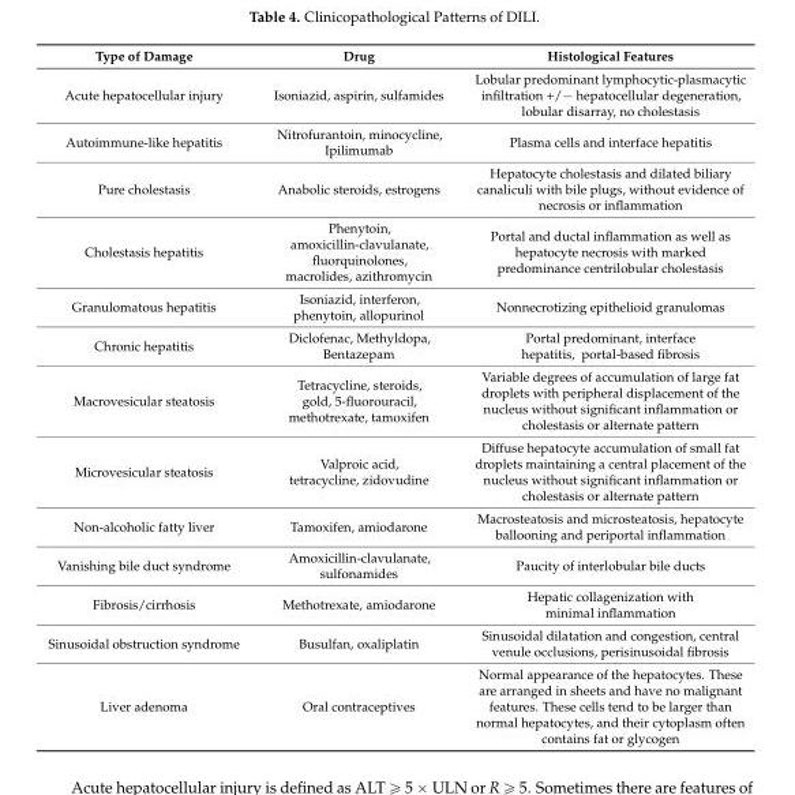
<table><thead><tr><td>Type of Damage</td><td>Drug</td><td>Histological Features</td></tr></thead><tbody><tr><td>Acute hepatocellular injury</td><td>Isoniazid, aspirin, sulfamides</td><td>Lobular predominant lymphocytic-plasmacytic infiltration +/− hepatocellular degeneration, lobular disarray, no cholestasis</td></tr><tr><td>Autoimmune-like hepatitis</td><td>Nitrofurantoin, minocycline, Ipilimumab</td><td>Plasma cells and interface hepatitis</td></tr><tr><td>Pure cholestasis</td><td>Anabolic steroids, estrogens</td><td>Hepatocyte cholestasis and dilated biliary canaliculi with bile plugs, without evidence of necrosis or inflammation</td></tr><tr><td>Cholestasis hepatitis</td><td>Phenytoin, amoxicillin-clavulanate, fluorquinolones, macrolides, azithromycin</td><td>Portal and ductal inflammation as well as hepatocyte necrosis with marked predominance centrilobular cholestasis</td></tr><tr><td>Granulomatous hepatitis</td><td>Isoniazid, interferon, phenytoin, allopurinol</td><td>Nonnecrotizing epithelioid granulomas</td></tr><tr><td>Chronic hepatitis</td><td>Diclofenac, Methyldopa, Bentazepam</td><td>Portal predominant, interface hepatitis, portal-based fibrosis</td></tr><tr><td>Macrovesicular steatosis</td><td>Tetracycline, steroids, gold, 5-fluorouracil, methotrexate, tamoxifen</td><td>Variable degrees of accumulation of large fat droplets with peripheral displacement of the nucleus without significant inflammation or cholestasis or alternate pattern</td></tr><tr><td>Microvesicular steatosis</td><td>Valproic acid, tetracycline, zidovudine</td><td>Diffuse hepatocyte accumulation of small fat droplets maintaining a central placement of the nucleus without significant inflammation or cholestasis or alternate pattern</td></tr><tr><td>Non-alcoholic fatty liver</td><td>Tamoxifen, amiodarone</td><td>Macrosteatosis and microsteatosis, hepatocyte ballooning and periportal inflammation</td></tr><tr><td>Vanishing bile duct syndrome</td><td>Amoxicillin-clavulanate, sulfonamides</td><td>Paucity of interlobular bile ducts</td></tr><tr><td>Fibrosis/cirrhosis</td><td>Methotrexate, amiodarone</td><td>Hepatic collagenization with minimal inflammation</td></tr><tr><td>Sinusoidal obstruction syndrome</td><td>Busulfan, oxaliplatin</td><td>Sinusoidal dilatation and congestion, central venule occlusions, perisinusoidal fibrosis</td></tr><tr><td>Liver adenoma</td><td>Oral contraceptives</td><td>Normal appearance of the hepatocytes. These are arranged in sheets and have no malignant features. These cells tend to be larger than normal hepatocytes, and their cytoplasm often contains fat or glycogen</td></tr></tbody></table>